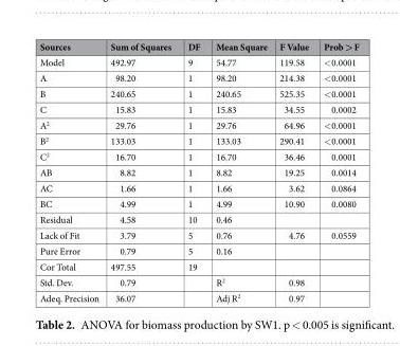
<table><thead><tr><td>Sources</td><td>Sum of Squares</td><td>DF</td><td>Mean Square</td><td>F Value</td><td>Prob &gt; F</td></tr></thead><tbody><tr><td>Model</td><td>492.97</td><td>9</td><td>54.77</td><td>119.58</td><td>&lt;0.0001</td></tr><tr><td>A</td><td>98.20</td><td>1</td><td>98.20</td><td>214.38</td><td>&lt;0.0001</td></tr><tr><td>B</td><td>240.65</td><td>1</td><td>240.65</td><td>525.35</td><td>&lt;0.0001</td></tr><tr><td>C</td><td>15.83</td><td>1</td><td>15.83</td><td>34.55</td><td>0.0002</td></tr><tr><td>A<sup>2</sup></td><td>29.76</td><td>1</td><td>29.76</td><td>64.96</td><td>&lt;0.0001</td></tr><tr><td>B<sup>2</sup></td><td>133.03</td><td>1</td><td>133.03</td><td>290.41</td><td>&lt;0.0001</td></tr><tr><td>C<sup>2</sup></td><td>16.70</td><td>1</td><td>16.70</td><td>36.46</td><td>0.0001</td></tr><tr><td>AB</td><td>8.82</td><td>1</td><td>8.82</td><td>19.25</td><td>0.0014</td></tr><tr><td>AC</td><td>1.66</td><td>1</td><td>1.66</td><td>3.62</td><td>0.0864</td></tr><tr><td>BC</td><td>4.99</td><td>1</td><td>4.99</td><td>10.90</td><td>0.0080</td></tr><tr><td>Residual</td><td>4.58</td><td>10</td><td>0.46</td><td></td><td></td></tr><tr><td>Lack of Fit</td><td>3.79</td><td>5</td><td>0.76</td><td>4.76</td><td>0.0559</td></tr><tr><td>Pure Error</td><td>0.79</td><td>5</td><td>0.16</td><td></td><td></td></tr><tr><td>Cor Total</td><td>497.55</td><td>19</td><td></td><td></td><td></td></tr><tr><td>Std. Dev.</td><td>0.79</td><td></td><td>R<sup>2</sup></td><td>0.98</td><td></td></tr><tr><td>Adeq. Precision</td><td>36.07</td><td></td><td>Adj R<sup>2</sup></td><td>0.97</td><td></td></tr></tbody></table>